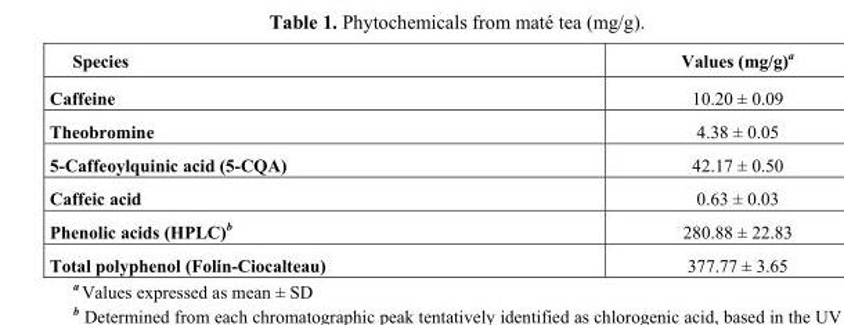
<table><thead><tr><td>Species</td><td>Values (mg/g)<sup>a</sup></td></tr></thead><tbody><tr><td>Caffeine</td><td>10.20 ± 0.09</td></tr><tr><td>Theobromine</td><td>4.38 ± 0.05</td></tr><tr><td>5-Caffeoylquinic acid (5-CQA)</td><td>42.17 ± 0.50</td></tr><tr><td>Caffeic acid</td><td>0.63 ± 0.03</td></tr><tr><td>Phenolic acids (HPLC)<sup>b</sup></td><td>280.88 ± 22.83</td></tr><tr><td>Total polyphenol (Folin-Ciocalteau)</td><td>377.77 ± 3.65</td></tr></tbody></table>